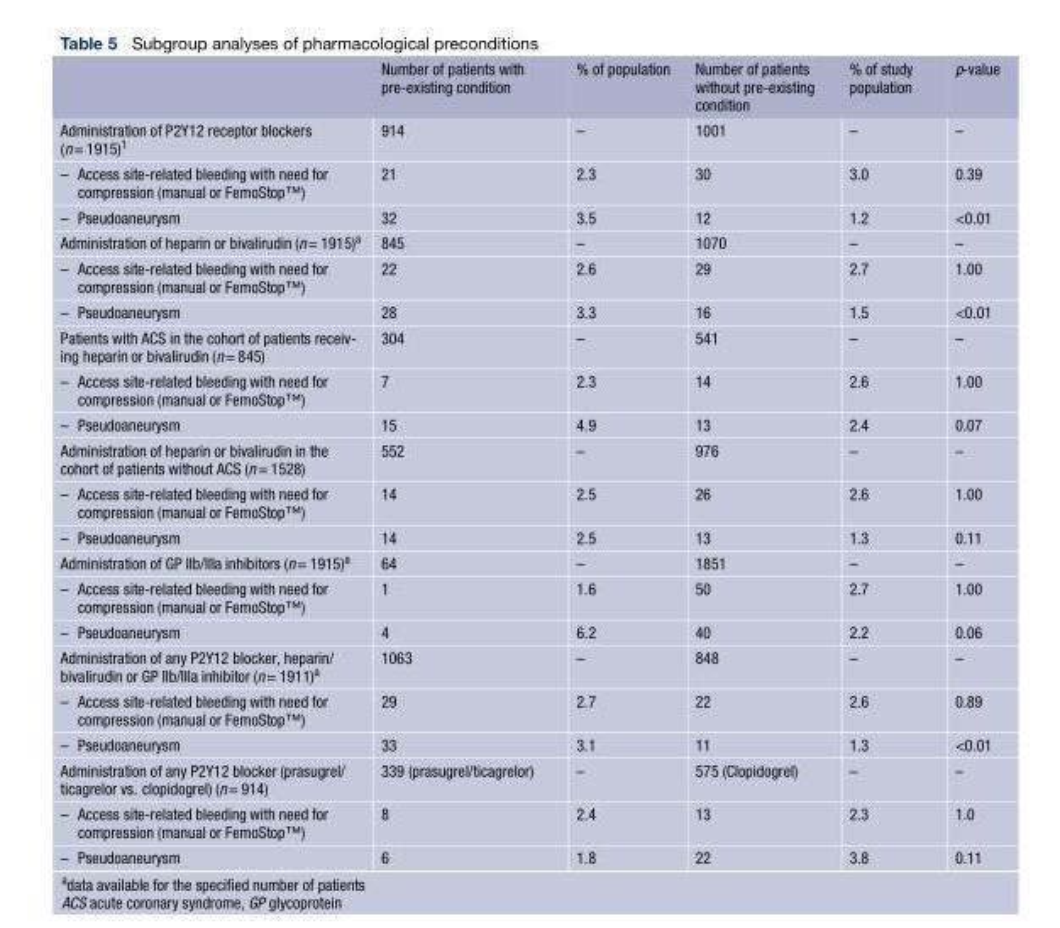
<table><thead><tr><td></td><td>Number of patients with pre-existing condition</td><td>% of population</td><td>Number of patients without pre-existing condition</td><td>% of study population</td><td>p-value</td></tr></thead><tbody><tr><td>Administration of P2Y12 receptor blockers (n= 1915)<sup>1</sup></td><td>914</td><td>–</td><td>1001</td><td>–</td><td>–</td></tr><tr><td>– Access site-related bleeding with need for compression (manual or FemoStop™)</td><td>21</td><td>2.3</td><td>30</td><td>3.0</td><td>0.39</td></tr><tr><td>– Pseudoaneurysm</td><td>32</td><td>3.5</td><td>12</td><td>1.2</td><td>&lt;0.01</td></tr><tr><td>Administration of heparin or bivalirudin (n= 1915)<sup>a</sup></td><td>845</td><td>–</td><td>1070</td><td>–</td><td>–</td></tr><tr><td>– Access site-related bleeding with need for compression (manual or FemoStop™)</td><td>22</td><td>2.6</td><td>29</td><td>2.7</td><td>1.00</td></tr><tr><td>– Pseudoaneurysm</td><td>28</td><td>3.3</td><td>16</td><td>1.5</td><td>&lt;0.01</td></tr><tr><td>Patients with ACS in the cohort of patients receiv- ing heparin or bivalirudin (n= 845)</td><td>304</td><td>–</td><td>541</td><td>–</td><td>–</td></tr><tr><td>– Access site-related bleeding with need for compression (manual or FemoStop™)</td><td>7</td><td>2.3</td><td>14</td><td>2.6</td><td>1.00</td></tr><tr><td>– Pseudoaneurysm</td><td>15</td><td>4.9</td><td>13</td><td>2.4</td><td>0.07</td></tr><tr><td>Administration of heparin or bivalirudin in the cohort of patients without ACS (n= 1528)</td><td>552</td><td>–</td><td>976</td><td>–</td><td>–</td></tr><tr><td>– Access site-related bleeding with need for compression (manual or FemoStop™)</td><td>14</td><td>2.5</td><td>26</td><td>2.6</td><td>1.00</td></tr><tr><td>– Pseudoaneurysm</td><td>14</td><td>2.5</td><td>13</td><td>1.3</td><td>0.11</td></tr><tr><td>Administration of GP IIb/IIIa inhibitors (n= 1915)<sup>a</sup></td><td>64</td><td>–</td><td>1851</td><td>–</td><td>–</td></tr><tr><td>– Access site-related bleeding with need for compression (manual or FemoStop™)</td><td>1</td><td>1.6</td><td>50</td><td>2.7</td><td>1.00</td></tr><tr><td>– Pseudoaneurysm</td><td>4</td><td>6.2</td><td>40</td><td>2.2</td><td>0.06</td></tr><tr><td>Administration of any P2Y12 blocker, heparin/ bivalirudin or GP IIb/IIIa inhibitor (n= 1911)<sup>a</sup></td><td>1063</td><td>–</td><td>848</td><td>–</td><td>–</td></tr><tr><td>– Access site-related bleeding with need for compression (manual or FemoStop™)</td><td>29</td><td>2.7</td><td>22</td><td>2.6</td><td>0.89</td></tr><tr><td>– Pseudoaneurysm</td><td>33</td><td>3.1</td><td>11</td><td>1.3</td><td>&lt;0.01</td></tr><tr><td>Administration of any P2Y12 blocker (prasugrel/ ticagrelor vs. clopidogrel) (n= 914)</td><td>339 (prasugrel/ticagrelor)</td><td>–</td><td>575 (Clopidogrel)</td><td>–</td><td>–</td></tr><tr><td>– Access site-related bleeding with need for compression (manual or FemoStop™)</td><td>8</td><td>2.4</td><td>13</td><td>2.3</td><td>1.0</td></tr><tr><td>– Pseudoaneurysm</td><td>6</td><td>1.8</td><td>22</td><td>3.8</td><td>0.11</td></tr></tbody></table>